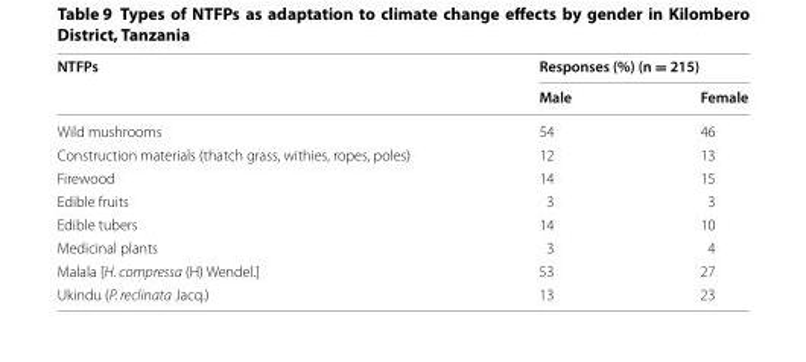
<table><thead><tr><td rowspan="2">NTFPs</td><td colspan="2">Responses (%) (n = 215)</td></tr><tr><td>Male</td><td>Female</td></tr></thead><tbody><tr><td>Wild mushrooms</td><td>54</td><td>46</td></tr><tr><td>Construction materials (thatch grass, withies, ropes, poles)</td><td>12</td><td>13</td></tr><tr><td>Firewood</td><td>14</td><td>15</td></tr><tr><td>Edible fruits</td><td>3</td><td>3</td></tr><tr><td>Edible tubers</td><td>14</td><td>10</td></tr><tr><td>Medicinal plants</td><td>3</td><td>4</td></tr><tr><td>Malala [H. compressa (H) Wendel.]</td><td>53</td><td>27</td></tr><tr><td>Ukindu (P. reclinata Jacq.)</td><td>13</td><td>23</td></tr></tbody></table>